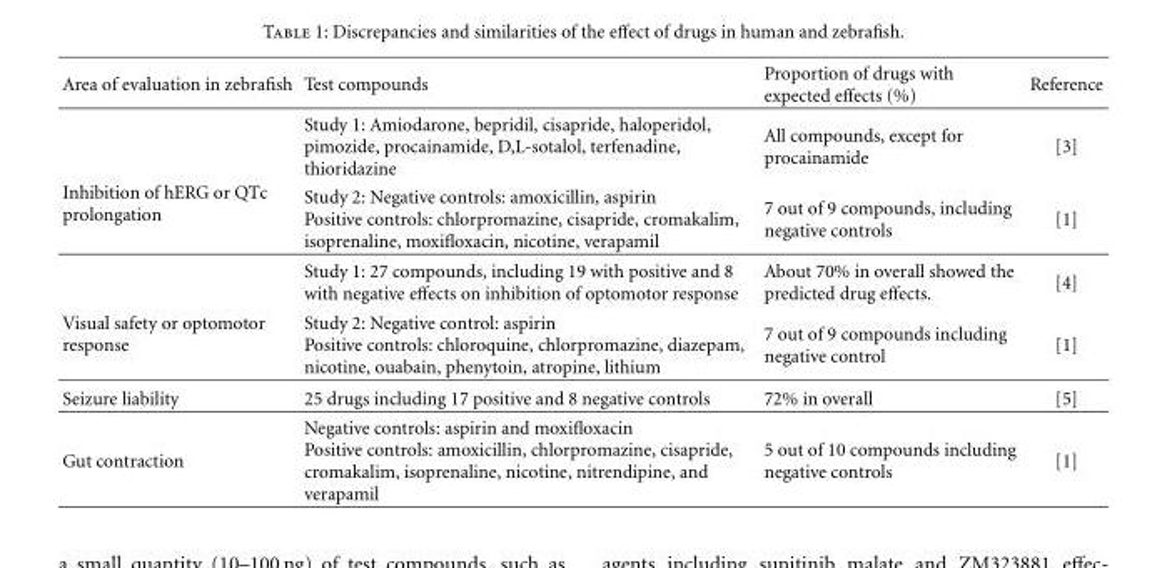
<table><thead><tr><td>Area of evaluation in zebrafish</td><td>Test compounds</td><td>Proportion of drugs with expected effects (%)</td><td>Reference</td></tr></thead><tbody><tr><td rowspan="2">Inhibition of hERG or QTc prolongation</td><td>Study 1: Amiodarone, bepridil, cisapride, haloperidol, pimozide, procainamide, D,L-sotalol, terfenadine, thioridazine</td><td>All compounds, except for procainamide</td><td>[3]</td></tr><tr><td>Study 2: Negative controls: amoxicillin, aspirin Positive controls: chlorpromazine, cisapride, cromakalim, isoprenaline, moxifloxacin, nicotine, verapamil</td><td>7 out of 9 compounds, including negative controls</td><td>[1]</td></tr><tr><td rowspan="2">Visual safety or optomotor response</td><td>Study 1: 27 compounds, including 19 with positive and 8 with negative effects on inhibition of optomotor response</td><td>About 70% in overall showed the predicted drug effects.</td><td>[4]</td></tr><tr><td>Study 2: Negative control: aspirin Positive controls: chloroquine, chlorpromazine, diazepam, nicotine, ouabain, phenytoin, atropine, lithium</td><td>7 out of 9 compounds including negative control</td><td>[1]</td></tr><tr><td>Seizure liability</td><td>25 drugs including 17 positive and 8 negative controls</td><td>72% in overall</td><td>[5]</td></tr><tr><td>Gut contraction</td><td>Negative controls: aspirin and moxifloxacin Positive controls: amoxicillin, chlorpromazine, cisapride, cromakalim, isoprenaline, nicotine, nitrendipine, and verapamil</td><td>5 out of 10 compounds including negative controls</td><td>[1]</td></tr></tbody></table>